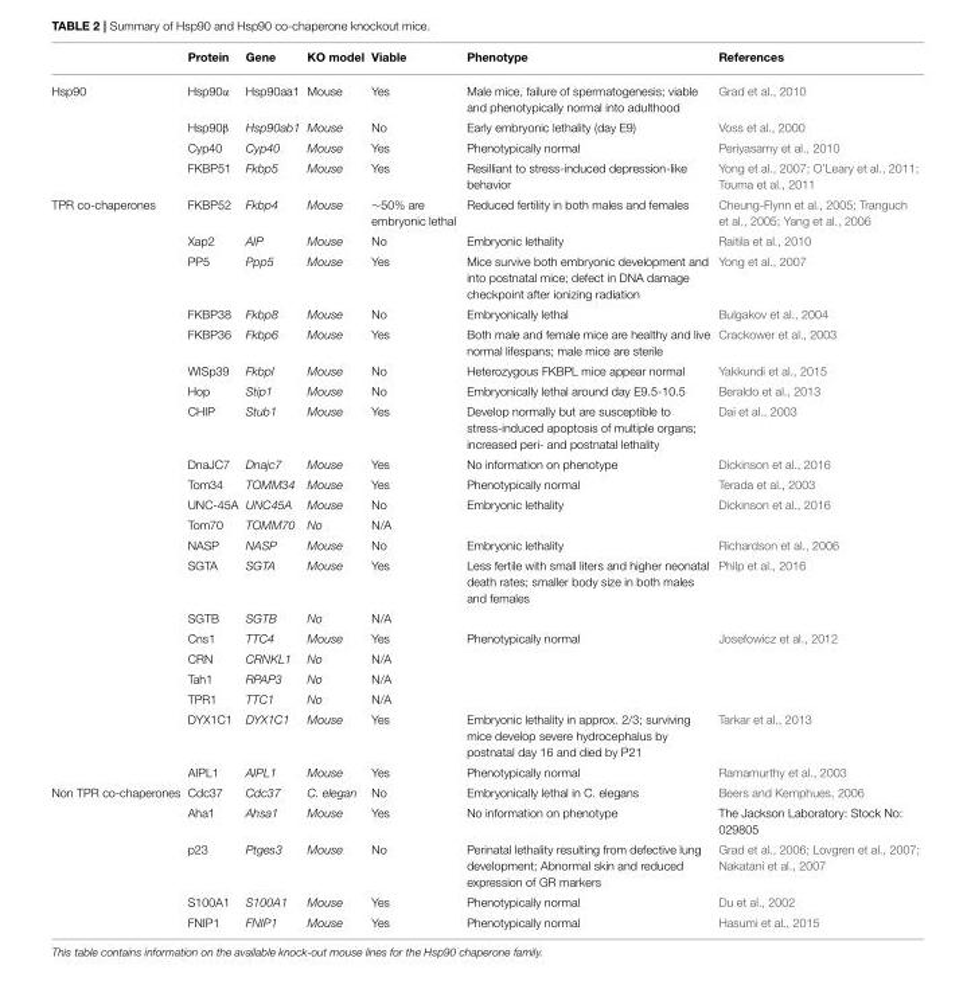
<table><thead><tr><td></td><td>Protein</td><td>Gene</td><td>KO model</td><td>Viable</td><td>Phenotype</td><td>References</td></tr></thead><tbody><tr><td rowspan="4">Hsp90</td><td>Hsp90α</td><td>Hsp90aa1</td><td>Mouse</td><td>Yes</td><td>Male mice, failure of spermatogenesis; viable and phenotypically normal into adulthood</td><td>Grad et al., 2010</td></tr><tr><td>Hsp90β</td><td>Hsp90ab1</td><td>Mouse</td><td>No</td><td>Early embryonic lethality (day E9)</td><td>Voss et al., 2000</td></tr><tr><td>Cyp40</td><td>Cyp40</td><td>Mouse</td><td>Yes</td><td>Phenotypically normal</td><td>Periyasamy et al., 2010</td></tr><tr><td>FKBP51</td><td>Fkbp5</td><td>Mouse</td><td>Yes</td><td>Resilliant to stress-induced depression-like behavior</td><td>Yong et al., 2007; O’Leary et al., 2011; Touma et al., 2011</td></tr><tr><td rowspan="21">TPR co-chaperones</td><td>FKBP52</td><td>Fkbp4</td><td>Mouse</td><td>∼50% are embryonic lethal</td><td>Reduced fertility in both males and females</td><td>Cheung-Flynn et al., 2005; Tranguch et al., 2005; Yang et al., 2006</td></tr><tr><td>Xap2</td><td>AIP</td><td>Mouse</td><td>No</td><td>Embryonic lethality</td><td>Raitila et al., 2010</td></tr><tr><td>PP5</td><td>Ppp5</td><td>Mouse</td><td>Yes</td><td>Mice survive both embryonic development and into postnatal mice; defect in DNA damage checkpoint after ionizing radiation</td><td>Yong et al., 2007</td></tr><tr><td>FKBP38</td><td>Fkbp8</td><td>Mouse</td><td>No</td><td>Embryonically lethal</td><td>Bulgakov et al., 2004</td></tr><tr><td>FKBP36</td><td>Fkbp6</td><td>Mouse</td><td>Yes</td><td>Both male and female mice are healthy and live normal lifespans; male mice are sterile</td><td>Crackower et al., 2003</td></tr><tr><td>WISp39</td><td>Fkbpl</td><td>Mouse</td><td>No</td><td>Heterozygous FKBPL mice appear normal</td><td>Yakkundi et al., 2015</td></tr><tr><td>Hop</td><td>Stip1</td><td>Mouse</td><td>No</td><td>Embryonically lethal around day E9.5-10.5</td><td>Beraldo et al., 2013</td></tr><tr><td>CHIP</td><td>Stub1</td><td>Mouse</td><td>Yes</td><td>Develop normally but are susceptible to stress-induced apoptosis of multiple organs; increased peri- and postnatal lethality</td><td>Dai et al., 2003</td></tr><tr><td>DnaJC7</td><td>Dnajc7</td><td>Mouse</td><td>Yes</td><td>No information on phenotype</td><td>Dickinson et al., 2016</td></tr><tr><td>Tom34</td><td>TOMM34</td><td>Mouse</td><td>Yes</td><td>Phenotypically normal</td><td>Terada et al., 2003</td></tr><tr><td>UNC-45A</td><td>UNC45A</td><td>Mouse</td><td>No</td><td>Embryonic lethality</td><td>Dickinson et al., 2016</td></tr><tr><td>Tom70</td><td>TOMM70</td><td>No</td><td>N/A</td><td></td><td></td></tr><tr><td>NASP</td><td>NASP</td><td>Mouse</td><td>No</td><td>Embryonic lethality</td><td>Richardson et al., 2006</td></tr><tr><td>SGTA</td><td>SGTA</td><td>Mouse</td><td>Yes</td><td>Less fertile with small liters and higher neonatal death rates; smaller body size in both males and females</td><td>Philp et al., 2016</td></tr><tr><td>SGTB</td><td>SGTB</td><td>No</td><td>N/A</td><td></td><td></td></tr><tr><td>Cns1</td><td>TTC4</td><td>Mouse</td><td>Yes</td><td>Phenotypically normal</td><td>Josefowicz et al., 2012</td></tr><tr><td>CRN</td><td>CRNKL1</td><td>No</td><td>N/A</td><td></td><td></td></tr><tr><td>Tah1</td><td>RPAP3</td><td>No</td><td>N/A</td><td></td><td></td></tr><tr><td>TPR1</td><td>TTC1</td><td>No</td><td>N/A</td><td></td><td></td></tr><tr><td>DYX1C1</td><td>DYX1C1</td><td>Mouse</td><td>Yes</td><td>Embryonic lethality in approx. 2/3; surviving mice develop severe hydrocephalus by postnatal day 16 and died by P21</td><td>Tarkar et al., 2013</td></tr><tr><td>AIPL1</td><td>AIPL1</td><td>Mouse</td><td>Yes</td><td>Phenotypically normal</td><td>Ramamurthy et al., 2003</td></tr><tr><td rowspan="5">Non TPR co-chaperones</td><td>Cdc37</td><td>Cdc37</td><td>C. elegan</td><td>No</td><td>Embryonically lethal in C. elegans</td><td>Beers and Kemphues, 2006</td></tr><tr><td>Aha1</td><td>Ahsa1</td><td>Mouse</td><td>Yes</td><td>No information on phenotype</td><td>The Jackson Laboratory: Stock No: 029805</td></tr><tr><td>p23</td><td>Ptges3</td><td>Mouse</td><td>No</td><td>Perinatal lethality resulting from defective lung development; Abnormal skin and reduced expression of GR markers</td><td>Grad et al., 2006; Lovgren et al., 2007; Nakatani et al., 2007</td></tr><tr><td>S100A1</td><td>S100A1</td><td>Mouse</td><td>Yes</td><td>Phenotypically normal</td><td>Du et al., 2002</td></tr><tr><td>FNIP1</td><td>FNIP1</td><td>Mouse</td><td>Yes</td><td>Phenotypically normal</td><td>Hasumi et al., 2015</td></tr></tbody></table>